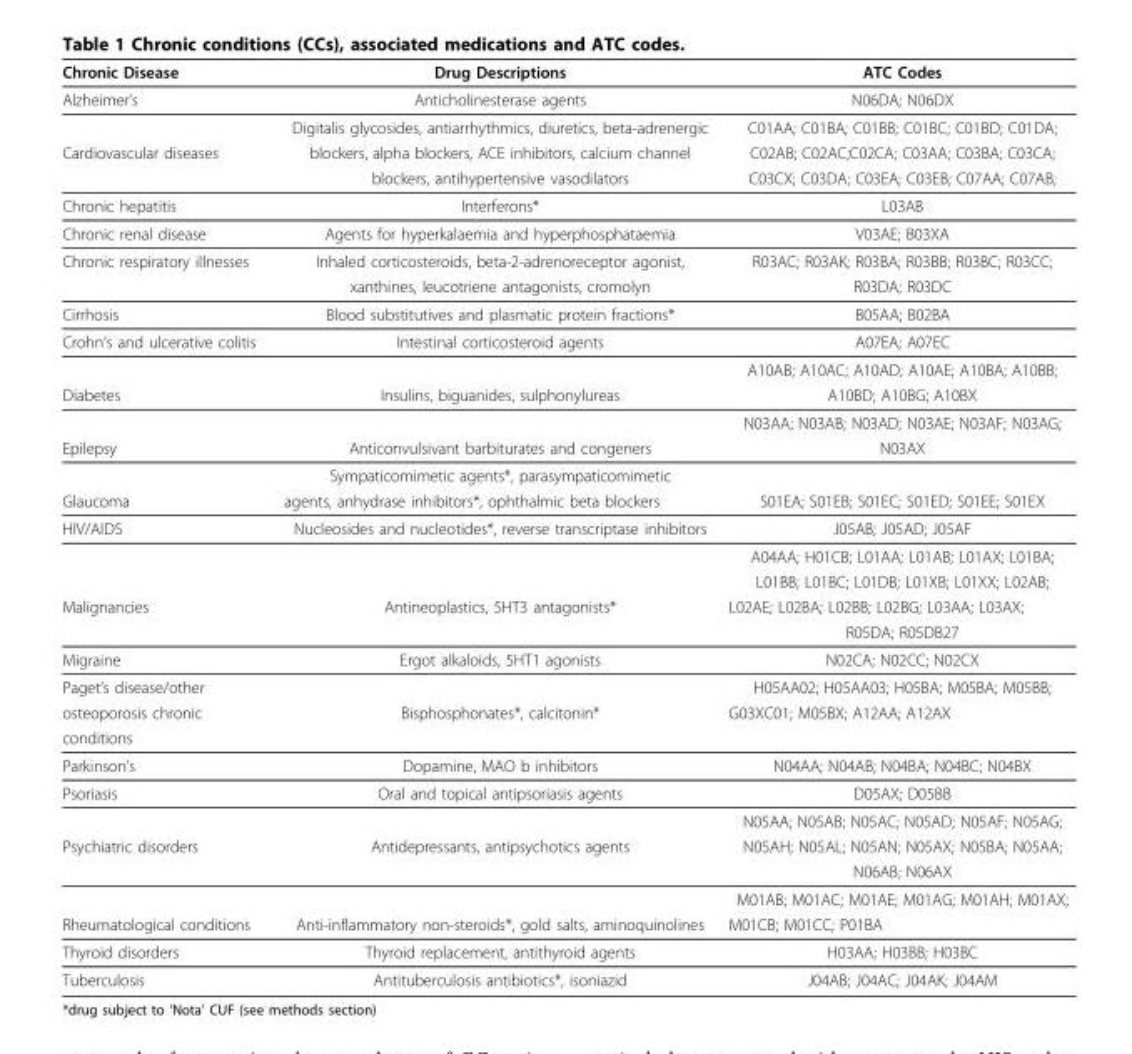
<table><thead><tr><td>Chronic Disease</td><td>Drug Descriptions</td><td>ATC Codes</td></tr></thead><tbody><tr><td rowspan="2">Alzheimer’s</td><td>Anticholinesterase agents</td><td>N06DA; N06DX</td></tr><tr><td>Digitalis glycosides, antiarrhythmics, diuretics, beta-adrenergic</td><td>C01AA; C01BA; C01BB; C01BC; C01BD; C01DA;</td></tr><tr><td rowspan="2">Cardiovascular diseases</td><td>blockers, alpha blockers, ACE inhibitors, calcium channel</td><td>C02AB; C02AC;C02CA; C03AA; C03BA; C03CA;</td></tr><tr><td>blockers, antihypertensive vasodilators</td><td>C03CX; C03DA; C03EA; C03EB; C07AA; C07AB;</td></tr><tr><td>Chronic hepatitis</td><td>Interferons*</td><td>L03AB</td></tr><tr><td>Chronic renal disease</td><td>Agents for hyperkalaemia and hyperphosphataemia</td><td>V03AE; B03XA</td></tr><tr><td rowspan="2">Chronic respiratory illnesses</td><td>Inhaled corticosteroids, beta-2-adrenoreceptor agonist,</td><td>R03AC; R03AK; R03BA; R03BB; R03BC; R03CC;</td></tr><tr><td>xanthines, leucotriene antagonists, cromolyn</td><td>R03DA; R03DC</td></tr><tr><td>Cirrhosis</td><td>Blood substitutives and plasmatic protein fractions*</td><td>B05AA; B02BA</td></tr><tr><td rowspan="2">Crohn’s and ulcerative colitis</td><td>Intestinal corticosteroid agents</td><td>A07EA; A07EC</td></tr><tr><td></td><td>A10AB; A10AC; A10AD; A10AE; A10BA; A10BB;</td></tr><tr><td rowspan="2">Diabetes</td><td>Insulins, biguanides, sulphonylureas</td><td>A10BD; A10BG; A10BX</td></tr><tr><td></td><td>N03AA; N03AB; N03AD; N03AE; N03AF; N03AG;</td></tr><tr><td rowspan="2">Epilepsy</td><td>Anticonvulsivant barbiturates and congeners</td><td>N03AX</td></tr><tr><td>Sympaticomimetic agents*, parasympaticomimetic</td><td></td></tr><tr><td>Glaucoma</td><td>agents, anhydrase inhibitors*, ophthalmic beta blockers</td><td>S01EA; S01EB; S01EC; S01ED; S01EE; S01EX</td></tr><tr><td rowspan="3">HIV/AIDS</td><td>Nucleosides and nucleotides*, reverse transcriptase inhibitors</td><td>J05AB; J05AD; J05AF</td></tr><tr><td></td><td>A04AA; H01CB; L01AA; L01AB; L01AX; L01BA;</td></tr><tr><td></td><td>L01BB; L01BC; L01DB; L01XB; L01XX; L02AB;</td></tr><tr><td rowspan="2">Malignancies</td><td>Antineoplastics, 5HT3 antagonists*</td><td>L02AE; L02BA; L02BB; L02BG; L03AA; L03AX;</td></tr><tr><td></td><td>R05DA; R05DB27</td></tr><tr><td>Migraine</td><td>Ergot alkaloids, 5HT1 agonists</td><td>N02CA; N02CC; N02CX</td></tr><tr><td>Paget’s disease/other</td><td></td><td>H05AA02; H05AA03; H05BA; M05BA; M05BB;</td></tr><tr><td>osteoporosis chronic</td><td>Bisphosphonates*, calcitonin*</td><td>G03XC01; M05BX; A12AA; A12AX</td></tr><tr><td colspan="3">conditions</td></tr><tr><td>Parkinson’s</td><td>Dopamine, MAO b inhibitors</td><td>N04AA; N04AB; N04BA; N04BC; N04BX</td></tr><tr><td rowspan="2">Psoriasis</td><td>Oral and topical antipsoriasis agents</td><td>D05AX; D05BB</td></tr><tr><td></td><td>N05AA; N05AB; N05AC; N05AD; N05AF; N05AG;</td></tr><tr><td rowspan="3">Psychiatric disorders</td><td>Antidepressants, antipsychotics agents</td><td>N05AH; N05AL; N05AN; N05AX; N05BA; N05AA;</td></tr><tr><td></td><td>N06AB; N06AX</td></tr><tr><td></td><td>M01AB; M01AC; M01AE; M01AG; M01AH; M01AX;</td></tr><tr><td>Rheumatological conditions</td><td>Anti-inflammatory non-steroids*, gold salts, aminoquinolines</td><td>M01CB; M01CC; P01BA</td></tr><tr><td>Thyroid disorders</td><td>Thyroid replacement, antithyroid agents</td><td>H03AA; H03BB; H03BC</td></tr><tr><td>Tuberculosis</td><td>Antituberculosis antibiotics*, isoniazid</td><td>J04AB; J04AC; J04AK; J04AM</td></tr></tbody></table>